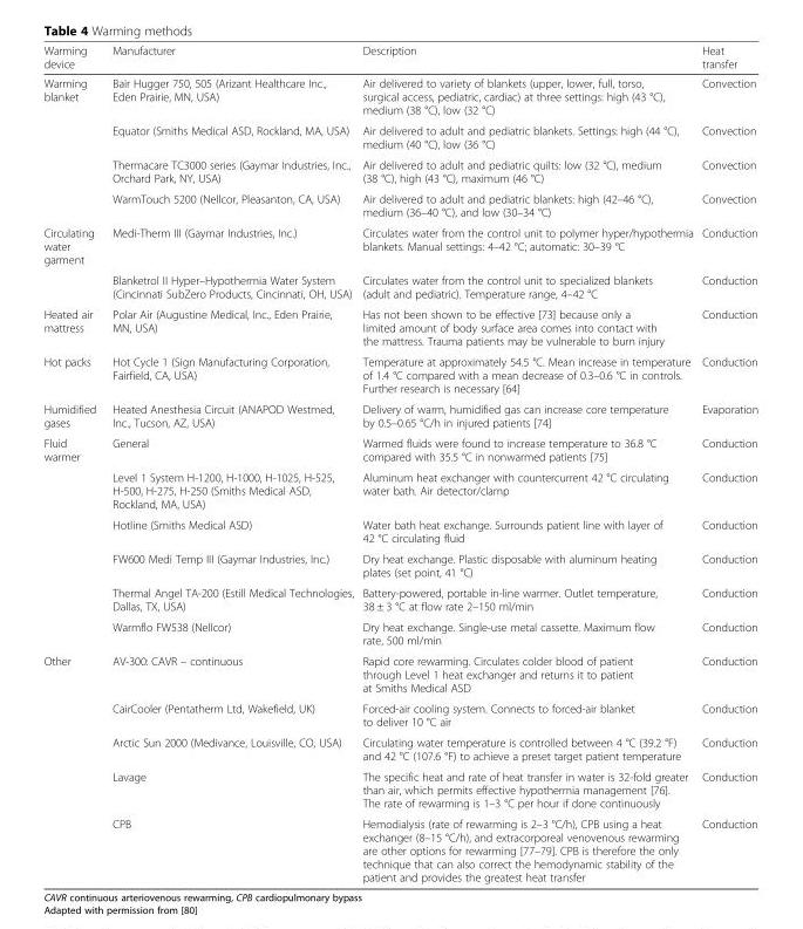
<table><thead><tr><td>Warming device</td><td>Manufacturer</td><td>Description</td><td>Heat transfer</td></tr></thead><tbody><tr><td rowspan="4">Warming blanket</td><td>Bair Hugger 750, 505 (Arizant Healthcare Inc., Eden Prairie, MN, USA)</td><td>Air delivered to variety of blankets (upper, lower, full, torso, surgical access, pediatric, cardiac) at three settings: high (43 °C), medium (38 °C), low (32 °C)</td><td>Convection</td></tr><tr><td>Equator (Smiths Medical ASD, Rockland, MA, USA)</td><td>Air delivered to adult and pediatric blankets. Settings: high (44 °C), medium (40 °C), low (36 °C)</td><td>Convection</td></tr><tr><td>Thermacare TC3000 series (Gaymar Industries, Inc., Orchard Park, NY, USA)</td><td>Air delivered to adult and pediatric quilts: low (32 °C), medium (38 °C), high (43 °C), maximum (46 °C)</td><td>Convection</td></tr><tr><td>WarmTouch 5200 (Nellcor, Pleasanton, CA, USA)</td><td>Air delivered to adult and pediatric blankets: high (42–46 °C), medium (36–40 °C), and low (30–34 °C)</td><td>Convection</td></tr><tr><td rowspan="2">Circulating water garment</td><td>Medi-Therm III (Gaymar Industries, Inc.)</td><td>Circulates water from the control unit to polymer hyper/hypothermia blankets. Manual settings: 4–42 °C; automatic: 30–39 °C</td><td>Conduction</td></tr><tr><td>Blanketrol II Hyper–Hypothermia Water System (Cincinnati SubZero Products, Cincinnati, OH, USA)</td><td>Circulates water from the control unit to specialized blankets (adult and pediatric). Temperature range, 4–42 °C</td><td>Conduction</td></tr><tr><td>Heated air mattress</td><td>Polar Air (Augustine Medical, Inc., Eden Prairie, MN, USA)</td><td>Has not been shown to be effective [73] because only a limited amount of body surface area comes into contact with the mattress. Trauma patients may be vulnerable to burn injury</td><td>Conduction</td></tr><tr><td>Hot packs</td><td>Hot Cycle 1 (Sign Manufacturing Corporation, Fairfield, CA, USA)</td><td>Temperature at approximately 54.5 °C. Mean increase in temperature of 1.4 °C compared with a mean decrease of 0.3–0.6 °C in controls. Further research is necessary [64]</td><td>Conduction</td></tr><tr><td>Humidified gases</td><td>Heated Anesthesia Circuit (ANAPOD Westmed, Inc., Tucson, AZ, USA)</td><td>Delivery of warm, humidified gas can increase core temperature by 0.5–0.65 °C/h in injured patients [74]</td><td>Evaporation</td></tr><tr><td rowspan="6">Fluid warmer</td><td>General</td><td>Warmed fluids were found to increase temperature to 36.8 °C compared with 35.5 °C in nonwarmed patients [75]</td><td>Conduction</td></tr><tr><td>Level 1 System H-1200, H-1000, H-1025, H-525, H-500, H-275, H-250 (Smiths Medical ASD, Rockland, MA, USA)</td><td>Aluminum heat exchanger with countercurrent 42 °C circulating water bath. Air detector/clamp</td><td>Conduction</td></tr><tr><td>Hotline (Smiths Medical ASD)</td><td>Water bath heat exchange. Surrounds patient line with layer of 42 °C circulating fluid</td><td>Conduction</td></tr><tr><td>FW600 Medi Temp III (Gaymar Industries, Inc.)</td><td>Dry heat exchange. Plastic disposable with aluminum heating plates (set point, 41 °C)</td><td>Conduction</td></tr><tr><td>Thermal Angel TA-200 (Estill Medical Technologies, Dallas, TX, USA)</td><td>Battery-powered, portable in-line warmer. Outlet temperature, 38 ± 3 °C at flow rate 2–150 ml/min</td><td>Conduction</td></tr><tr><td>Warmflo FW538 (Nellcor)</td><td>Dry heat exchange. Single-use metal cassette. Maximum flow rate, 500 ml/min</td><td>Conduction</td></tr><tr><td rowspan="5">Other</td><td>AV-300: CAVR – continuous</td><td>Rapid core rewarming. Circulates colder blood of patient through Level 1 heat exchanger and returns it to patient at Smiths Medical ASD</td><td>Conduction</td></tr><tr><td>CairCooler (Pentatherm Ltd, Wakefield, UK)</td><td>Forced-air cooling system. Connects to forced-air blanket to deliver 10 °C air</td><td>Conduction</td></tr><tr><td>Arctic Sun 2000 (Medivance, Louisville, CO, USA)</td><td>Circulating water temperature is controlled between 4 °C (39.2 °F) and 42 °C (107.6 °F) to achieve a preset target patient temperature</td><td>Conduction</td></tr><tr><td>Lavage</td><td>The specific heat and rate of heat transfer in water is 32-fold greater than air, which permits effective hypothermia management [76]. The rate of rewarming is 1–3 °C per hour if done continuously</td><td>Conduction</td></tr><tr><td>CPB</td><td>Hemodialysis (rate of rewarming is 2–3 °C/h), CPB using a heat exchanger (8–15 °C/h), and extracorporeal venovenous rewarming are other options for rewarming [77–79]. CPB is therefore the only technique that can also correct the hemodynamic stability of the patient and provides the greatest heat transfer</td><td>Conduction</td></tr></tbody></table>